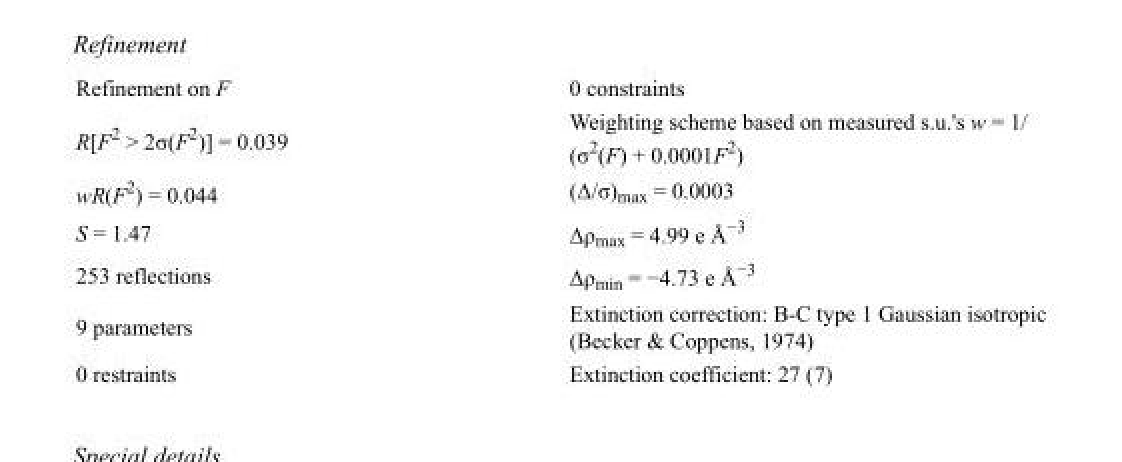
<table><tbody><tr><td>Refinement on F</td><td>0 constraints</td></tr><tr><td>R[F<sup>2</sup> &gt; 2σ(F<sup>2</sup>)] = 0.039</td><td>Weighting scheme based on measured s.u.&#x27;s w = 1/ (σ<sup>2</sup>(F) + 0.0001F<sup>2</sup>)</td></tr><tr><td>wR(F<sup>2</sup>) = 0.044</td><td>(Δ/σ)<sub>max</sub> = 0.0003</td></tr><tr><td>S = 1.47</td><td>Δρ<sub>max</sub> = 4.99 e Å<sup>−3</sup></td></tr><tr><td>253 reflections</td><td>Δρ<sub>min</sub> = −4.73 e Å<sup>−3</sup></td></tr><tr><td>9 parameters</td><td>Extinction correction: B-C type 1 Gaussian isotropic (Becker &amp; Coppens, 1974)</td></tr><tr><td>0 restraints</td><td>Extinction coefficient: 27 (7)</td></tr></tbody></table>